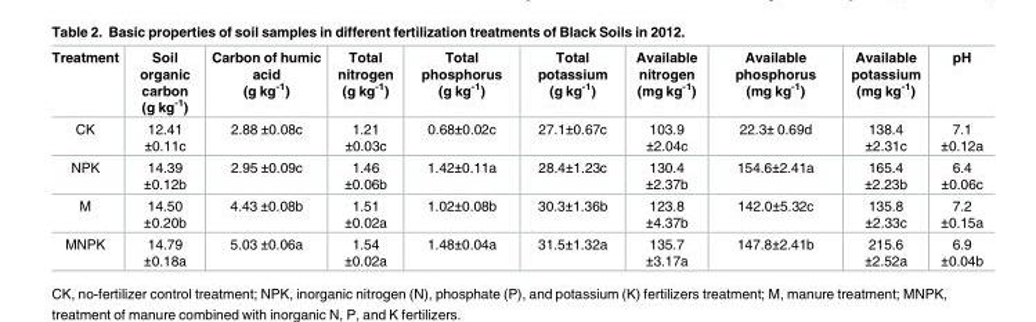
<table><thead><tr><td>Treatment</td><td>Soil organic carbon (g kg<sup>-1</sup>)</td><td>Carbon of humic acid (g kg<sup>-1</sup>)</td><td>Total nitrogen (g kg<sup>-1</sup>)</td><td>Total phosphorus (g kg<sup>-1</sup>)</td><td>Total potassium (g kg<sup>-1</sup>)</td><td>Available nitrogen (mg kg<sup>-1</sup>)</td><td>Available phosphorus (mg kg<sup>-1</sup>)</td><td>Available potassium (mg kg<sup>-1</sup>)</td><td>pH</td></tr></thead><tbody><tr><td>CK</td><td>12.41 ±0.11c</td><td>2.88 ±0.08c</td><td>1.21 ±0.03c</td><td>0.68±0.02c</td><td>27.1±0.67c</td><td>103.9 ±2.04c</td><td>22.3± 0.69d</td><td>138.4 ±2.31c</td><td>7.1 ±0.12a</td></tr><tr><td>NPK</td><td>14.39 ±0.12b</td><td>2.95 ±0.09c</td><td>1.46 ±0.06b</td><td>1.42±0.11a</td><td>28.4±1.23c</td><td>130.4 ±2.37b</td><td>154.6±2.41a</td><td>165.4 ±2.23b</td><td>6.4 ±0.06c</td></tr><tr><td>M</td><td>14.50 ±0.20b</td><td>4.43 ±0.08b</td><td>1.51 ±0.02a</td><td>1.02±0.08b</td><td>30.3±1.36b</td><td>123.8 ±4.37b</td><td>142.0±5.32c</td><td>135.8 ±2.33c</td><td>7.2 ±0.15a</td></tr><tr><td>MNPK</td><td>14.79 ±0.18a</td><td>5.03 ±0.06a</td><td>1.54 ±0.02a</td><td>1.48±0.04a</td><td>31.5±1.32a</td><td>135.7 ±3.17a</td><td>147.8±2.41b</td><td>215.6 ±2.52a</td><td>6.9 ±0.04b</td></tr></tbody></table>